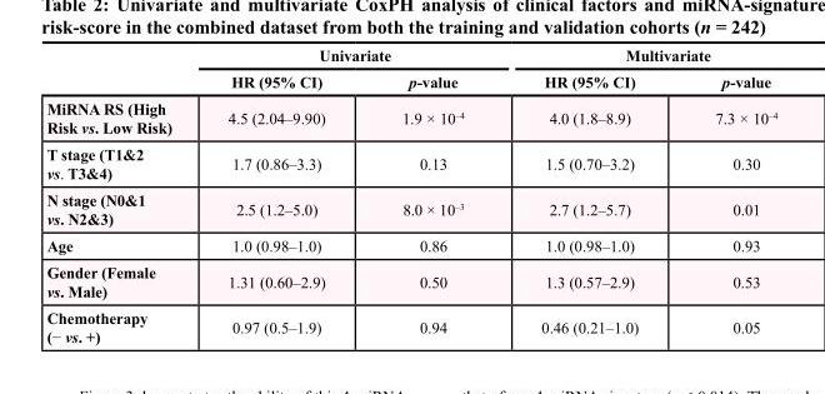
<table><thead><tr><td rowspan="2"></td><td colspan="2">Univariate</td><td colspan="2">Multivariate</td></tr><tr><td>HR (95% CI)</td><td>p-value</td><td>HR (95% CI)</td><td>p-value</td></tr></thead><tbody><tr><td>MiRNA RS (High Risk vs. Low Risk)</td><td>4.5 (2.04–9.90)</td><td>1.9 × 10<sup>–4</sup></td><td>4.0 (1.8–8.9)</td><td>7.3 × 10<sup>–4</sup></td></tr><tr><td>T stage (T1&amp;2 vs. T3&amp;4)</td><td>1.7 (0.86–3.3)</td><td>0.13</td><td>1.5 (0.70–3.2)</td><td>0.30</td></tr><tr><td>N stage (N0&amp;1 vs. N2&amp;3)</td><td>2.5 (1.2–5.0)</td><td>8.0 × 10<sup>–3</sup></td><td>2.7 (1.2–5.7)</td><td>0.01</td></tr><tr><td>Age</td><td>1.0 (0.98–1.0)</td><td>0.86</td><td>1.0 (0.98–1.0)</td><td>0.93</td></tr><tr><td>Gender (Female vs. Male)</td><td>1.31 (0.60–2.9)</td><td>0.50</td><td>1.3 (0.57–2.9)</td><td>0.53</td></tr><tr><td>Chemotherapy (− vs. +)</td><td>0.97 (0.5–1.9)</td><td>0.94</td><td>0.46 (0.21–1.0)</td><td>0.05</td></tr></tbody></table>